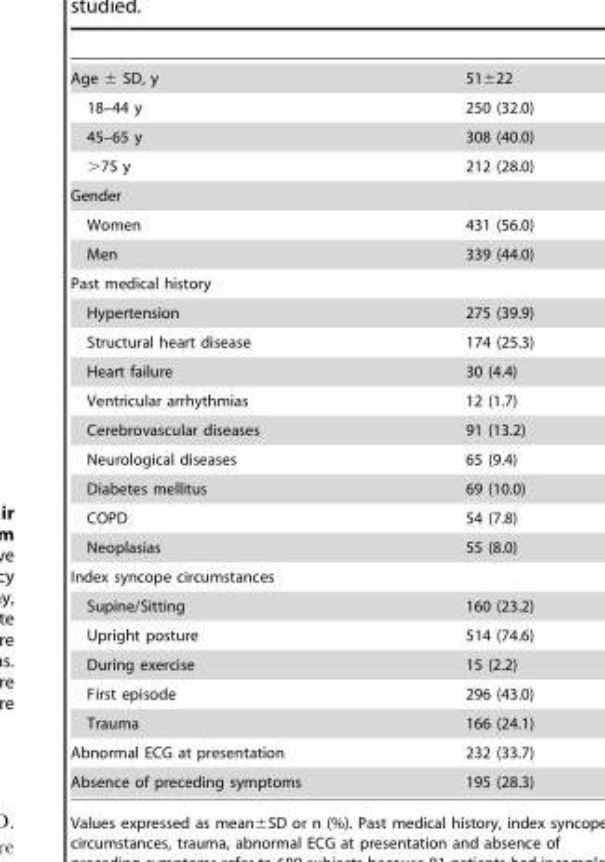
<table><tbody><tr><td>Age ± SD, y</td><td>51±22</td></tr><tr><td>18–44 y</td><td>250 (32.0)</td></tr><tr><td>45–65 y</td><td>308 (40.0)</td></tr><tr><td>&gt;75 y</td><td>212 (28.0)</td></tr><tr><td colspan="2">Gender</td></tr><tr><td>Women</td><td>431 (56.0)</td></tr><tr><td>Men</td><td>339 (44.0)</td></tr><tr><td colspan="2">Past medical history</td></tr><tr><td>Hypertension</td><td>275 (39.9)</td></tr><tr><td>Structural heart disease</td><td>174 (25.3)</td></tr><tr><td>Heart failure</td><td>30 (4.4)</td></tr><tr><td>Ventricular arrhythmias</td><td>12 (1.7)</td></tr><tr><td>Cerebrovascular diseases</td><td>91 (13.2)</td></tr><tr><td>Neurological diseases</td><td>65 (9.4)</td></tr><tr><td>Diabetes mellitus</td><td>69 (10.0)</td></tr><tr><td>COPD</td><td>54 (7.8)</td></tr><tr><td>Neoplasias</td><td>55 (8.0)</td></tr><tr><td colspan="2">Index syncope circumstances</td></tr><tr><td>Supine/Sitting</td><td>160 (23.2)</td></tr><tr><td>Upright posture</td><td>514 (74.6)</td></tr><tr><td>During exercise</td><td>15 (2.2)</td></tr><tr><td>First episode</td><td>296 (43.0)</td></tr><tr><td>Trauma</td><td>166 (24.1)</td></tr><tr><td>Abnormal ECG at presentation</td><td>232 (33.7)</td></tr><tr><td>Absence of preceding symptoms</td><td>195 (28.3)</td></tr></tbody></table>